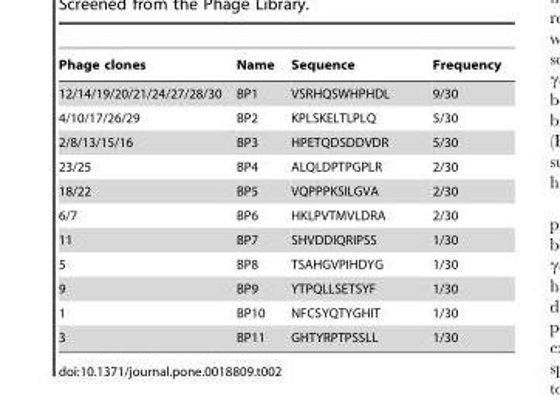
<table><thead><tr><td>Phage clones</td><td>Name</td><td>Sequence</td><td>Frequency</td></tr></thead><tbody><tr><td>12/14/19/20/21/24/27/28/30</td><td>BP1</td><td>VSRHQSWHPHDL</td><td>9/30</td></tr><tr><td>4/10/17/26/29</td><td>BP2</td><td>KPLSKELTLPLQ</td><td>5/30</td></tr><tr><td>2/8/13/15/16</td><td>BP3</td><td>HPETQDSDDVDR</td><td>5/30</td></tr><tr><td>23/25</td><td>BP4</td><td>ALQLDPTPGPLR</td><td>2/30</td></tr><tr><td>18/22</td><td>BP5</td><td>VQPPPKSILGVA</td><td>2/30</td></tr><tr><td>6/7</td><td>BP6</td><td>HKLPVTMVLDRA</td><td>2/30</td></tr><tr><td>11</td><td>BP7</td><td>SHVDDIQRIPSS</td><td>1/30</td></tr><tr><td>5</td><td>BP8</td><td>TSAHGVPIHDYG</td><td>1/30</td></tr><tr><td>9</td><td>BP9</td><td>YTPQLLSETSYF</td><td>1/30</td></tr><tr><td>1</td><td>BP10</td><td>NFCSYQTYGHIT</td><td>1/30</td></tr><tr><td>3</td><td>BP11</td><td>GHTYRPTPSSLL</td><td>1/30</td></tr></tbody></table>